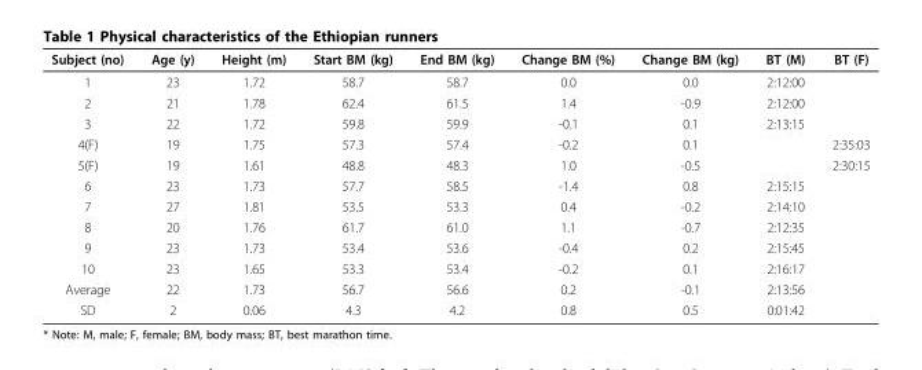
<table><thead><tr><td>Subject (no)</td><td>Age (y)</td><td>Height (m)</td><td>Start BM (kg)</td><td>End BM (kg)</td><td>Change BM (%)</td><td>Change BM (kg)</td><td>BT (M)</td><td>BT (F)</td></tr></thead><tbody><tr><td>1</td><td>23</td><td>1.72</td><td>58.7</td><td>58.7</td><td>0.0</td><td>0.0</td><td>2:12:00</td><td></td></tr><tr><td>2</td><td>21</td><td>1.78</td><td>62.4</td><td>61.5</td><td>1.4</td><td>-0.9</td><td>2:12:00</td><td></td></tr><tr><td>3</td><td>22</td><td>1.72</td><td>59.8</td><td>59.9</td><td>-0.1</td><td>0.1</td><td>2:13:15</td><td></td></tr><tr><td>4(F)</td><td>19</td><td>1.75</td><td>57.3</td><td>57.4</td><td>-0.2</td><td>0.1</td><td></td><td>2:35:03</td></tr><tr><td>5(F)</td><td>19</td><td>1.61</td><td>48.8</td><td>48.3</td><td>1.0</td><td>-0.5</td><td></td><td>2:30:15</td></tr><tr><td>6</td><td>23</td><td>1.73</td><td>57.7</td><td>58.5</td><td>-1.4</td><td>0.8</td><td>2:15:15</td><td></td></tr><tr><td>7</td><td>27</td><td>1.81</td><td>53.5</td><td>53.3</td><td>0.4</td><td>-0.2</td><td>2:14:10</td><td></td></tr><tr><td>8</td><td>20</td><td>1.76</td><td>61.7</td><td>61.0</td><td>1.1</td><td>-0.7</td><td>2:12:35</td><td></td></tr><tr><td>9</td><td>23</td><td>1.73</td><td>53.4</td><td>53.6</td><td>-0.4</td><td>0.2</td><td>2:15:45</td><td></td></tr><tr><td>10</td><td>23</td><td>1.65</td><td>53.3</td><td>53.4</td><td>-0.2</td><td>0.1</td><td>2:16:17</td><td></td></tr><tr><td>Average</td><td>22</td><td>1.73</td><td>56.7</td><td>56.6</td><td>0.2</td><td>-0.1</td><td>2:13:56</td><td></td></tr><tr><td>SD</td><td>2</td><td>0.06</td><td>4.3</td><td>4.2</td><td>0.8</td><td>0.5</td><td>0:01:42</td><td></td></tr></tbody></table>